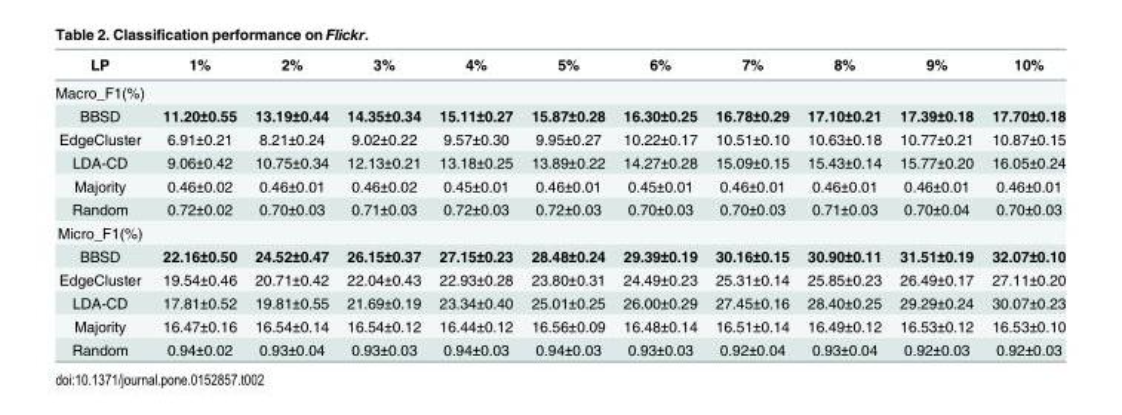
<table><thead><tr><td>LP</td><td>1%</td><td>2%</td><td>3%</td><td>4%</td><td>5%</td><td>6%</td><td>7%</td><td>8%</td><td>9%</td><td>10%</td></tr></thead><tbody><tr><td colspan="11">Macro_F1(%)</td></tr><tr><td>BBSD</td><td>11.20±0.55</td><td>13.19±0.44</td><td>14.35±0.34</td><td>15.11±0.27</td><td>15.87±0.28</td><td>16.30±0.25</td><td>16.78±0.29</td><td>17.10±0.21</td><td>17.39±0.18</td><td>17.70±0.18</td></tr><tr><td>EdgeCluster</td><td>6.91±0.21</td><td>8.21±0.24</td><td>9.02±0.22</td><td>9.57±0.30</td><td>9.95±0.27</td><td>10.22±0.17</td><td>10.51±0.10</td><td>10.63±0.18</td><td>10.77±0.21</td><td>10.87±0.15</td></tr><tr><td>LDA-CD</td><td>9.06±0.42</td><td>10.75±0.34</td><td>12.13±0.21</td><td>13.18±0.25</td><td>13.89±0.22</td><td>14.27±0.28</td><td>15.09±0.15</td><td>15.43±0.14</td><td>15.77±0.20</td><td>16.05±0.24</td></tr><tr><td>Majority</td><td>0.46±0.02</td><td>0.46±0.01</td><td>0.46±0.02</td><td>0.45±0.01</td><td>0.46±0.01</td><td>0.45±0.01</td><td>0.46±0.01</td><td>0.46±0.01</td><td>0.46±0.01</td><td>0.46±0.01</td></tr><tr><td>Random</td><td>0.72±0.02</td><td>0.70±0.03</td><td>0.71±0.03</td><td>0.72±0.03</td><td>0.72±0.03</td><td>0.70±0.03</td><td>0.70±0.03</td><td>0.71±0.03</td><td>0.70±0.04</td><td>0.70±0.03</td></tr><tr><td colspan="11">Micro_F1(%)</td></tr><tr><td>BBSD</td><td>22.16±0.50</td><td>24.52±0.47</td><td>26.15±0.37</td><td>27.15±0.23</td><td>28.48±0.24</td><td>29.39±0.19</td><td>30.16±0.15</td><td>30.90±0.11</td><td>31.51±0.19</td><td>32.07±0.10</td></tr><tr><td>EdgeCluster</td><td>19.54±0.46</td><td>20.71±0.42</td><td>22.04±0.43</td><td>22.93±0.28</td><td>23.80±0.31</td><td>24.49±0.23</td><td>25.31±0.14</td><td>25.85±0.23</td><td>26.49±0.17</td><td>27.11±0.20</td></tr><tr><td>LDA-CD</td><td>17.81±0.52</td><td>19.81±0.55</td><td>21.69±0.19</td><td>23.34±0.40</td><td>25.01±0.25</td><td>26.00±0.29</td><td>27.45±0.16</td><td>28.40±0.25</td><td>29.29±0.24</td><td>30.07±0.23</td></tr><tr><td>Majority</td><td>16.47±0.16</td><td>16.54±0.14</td><td>16.54±0.12</td><td>16.44±0.12</td><td>16.56±0.09</td><td>16.48±0.14</td><td>16.51±0.14</td><td>16.49±0.12</td><td>16.53±0.12</td><td>16.53±0.10</td></tr><tr><td>Random</td><td>0.94±0.02</td><td>0.93±0.04</td><td>0.93±0.03</td><td>0.94±0.03</td><td>0.94±0.03</td><td>0.93±0.03</td><td>0.92±0.04</td><td>0.93±0.04</td><td>0.92±0.03</td><td>0.92±0.03</td></tr></tbody></table>